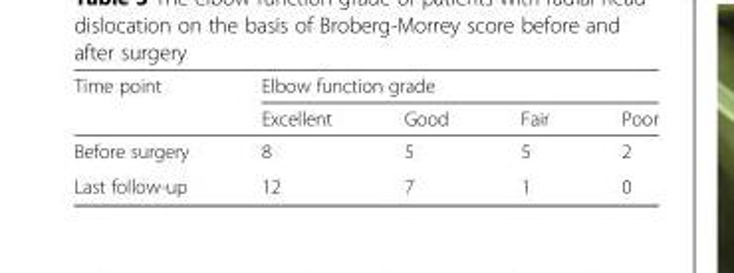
<table><thead><tr><td rowspan="2">Time point</td><td colspan="4">Elbow function grade</td></tr><tr><td>Excellent</td><td>Good</td><td>Fair</td><td>Poor</td></tr></thead><tbody><tr><td>Before surgery</td><td>8</td><td>5</td><td>5</td><td>2</td></tr><tr><td>Last follow-up</td><td>12</td><td>7</td><td>1</td><td>0</td></tr></tbody></table>